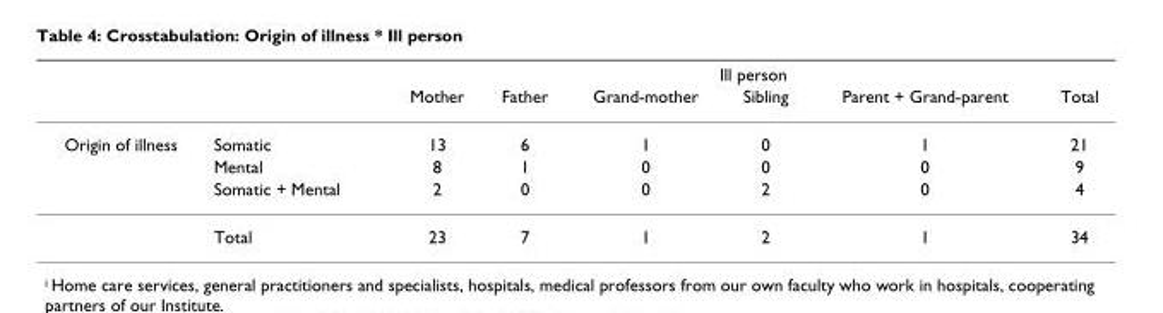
<table><thead><tr><td rowspan="2"></td><td rowspan="2"></td><td colspan="6">Ill person</td></tr><tr><td>Mother</td><td>Father</td><td>Grand-mother</td><td>Sibling</td><td>Parent + Grand-parent</td><td>Total</td></tr></thead><tbody><tr><td rowspan="4">Origin of illness</td><td>Somatic</td><td>13</td><td>6</td><td>1</td><td>0</td><td>1</td><td>21</td></tr><tr><td>Mental</td><td>8</td><td>1</td><td>0</td><td>0</td><td>0</td><td>9</td></tr><tr><td>Somatic + Mental</td><td>2</td><td>0</td><td>0</td><td>2</td><td>0</td><td>4</td></tr><tr><td>Total</td><td>23</td><td>7</td><td>1</td><td>2</td><td>1</td><td>34</td></tr></tbody></table>